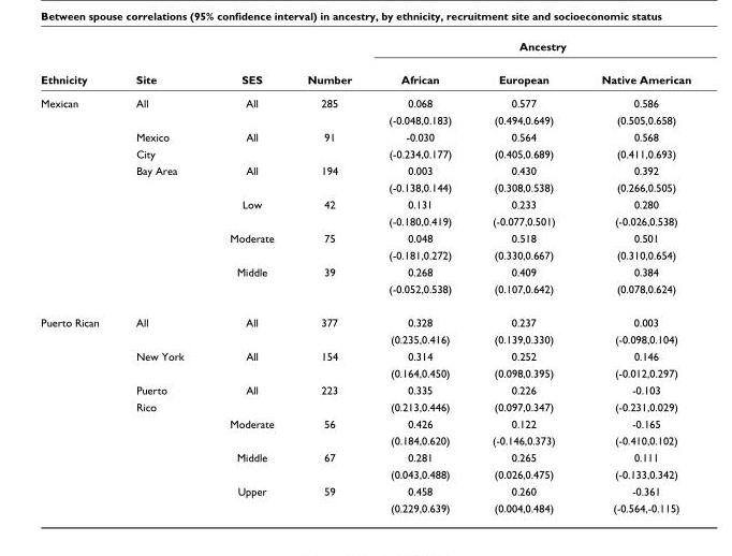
<table><thead><tr><td rowspan="2">Ethnicity</td><td rowspan="2">Site</td><td rowspan="2">SES</td><td rowspan="2">Number</td><td colspan="3">Ancestry</td></tr><tr><td>African</td><td>European</td><td>Native American</td></tr></thead><tbody><tr><td rowspan="12">Mexican</td><td>All</td><td>All</td><td>285</td><td>0.068</td><td>0.577</td><td>0.586</td></tr><tr><td></td><td></td><td></td><td>(-0.048,0.183)</td><td>(0.494,0.649)</td><td>(0.505,0.658)</td></tr><tr><td>Mexico</td><td>All</td><td>91</td><td>-0.030</td><td>0.564</td><td>0.568</td></tr><tr><td>City</td><td></td><td></td><td>(-0.234,0.177)</td><td>(0.405,0.689)</td><td>(0.411,0.693)</td></tr><tr><td>Bay Area</td><td>All</td><td>194</td><td>0.003</td><td>0.430</td><td>0.392</td></tr><tr><td></td><td></td><td></td><td>(-0.138,0.144)</td><td>(0.308,0.538)</td><td>(0.266,0.505)</td></tr><tr><td></td><td>Low</td><td>42</td><td>0.131</td><td>0.233</td><td>0.280</td></tr><tr><td></td><td></td><td></td><td>(-0.180,0.419)</td><td>(-0.077,0.501)</td><td>(-0.026,0.538)</td></tr><tr><td></td><td>Moderate</td><td>75</td><td>0.048</td><td>0.518</td><td>0.501</td></tr><tr><td></td><td></td><td></td><td>(-0.181,0.272)</td><td>(0.330,0.667)</td><td>(0.310,0.654)</td></tr><tr><td></td><td>Middle</td><td>39</td><td>0.268</td><td>0.409</td><td>0.384</td></tr><tr><td></td><td></td><td></td><td>(-0.052,0.538)</td><td>(0.107,0.642)</td><td>(0.078,0.624)</td></tr><tr><td rowspan="12">Puerto Rican</td><td>All</td><td>All</td><td>377</td><td>0.328</td><td>0.237</td><td>0.003</td></tr><tr><td></td><td></td><td></td><td>(0.235,0.416)</td><td>(0.139,0.330)</td><td>(-0.098,0.104)</td></tr><tr><td>New York</td><td>All</td><td>154</td><td>0.314</td><td>0.252</td><td>0.146</td></tr><tr><td></td><td></td><td></td><td>(0.164,0.450)</td><td>(0.098,0.395)</td><td>(-0.012,0.297)</td></tr><tr><td>Puerto</td><td>All</td><td>223</td><td>0.335</td><td>0.226</td><td>-0.103</td></tr><tr><td>Rico</td><td></td><td></td><td>(0.213,0.446)</td><td>(0.097,0.347)</td><td>(-0.231,0.029)</td></tr><tr><td></td><td>Moderate</td><td>56</td><td>0.426</td><td>0.122</td><td>-0.165</td></tr><tr><td></td><td></td><td></td><td>(0.184,0.620)</td><td>(-0.146,0.373)</td><td>(-0.410,0.102)</td></tr><tr><td></td><td>Middle</td><td>67</td><td>0.281</td><td>0.265</td><td>0.111</td></tr><tr><td></td><td></td><td></td><td>(0.043,0.488)</td><td>(0.026,0.475)</td><td>(-0.133,0.342)</td></tr><tr><td></td><td>Upper</td><td>59</td><td>0.458</td><td>0.260</td><td>-0.361</td></tr><tr><td></td><td></td><td></td><td>(0.229,0.639)</td><td>(0.004,0.484)</td><td>(-0.564,-0.115)</td></tr></tbody></table>